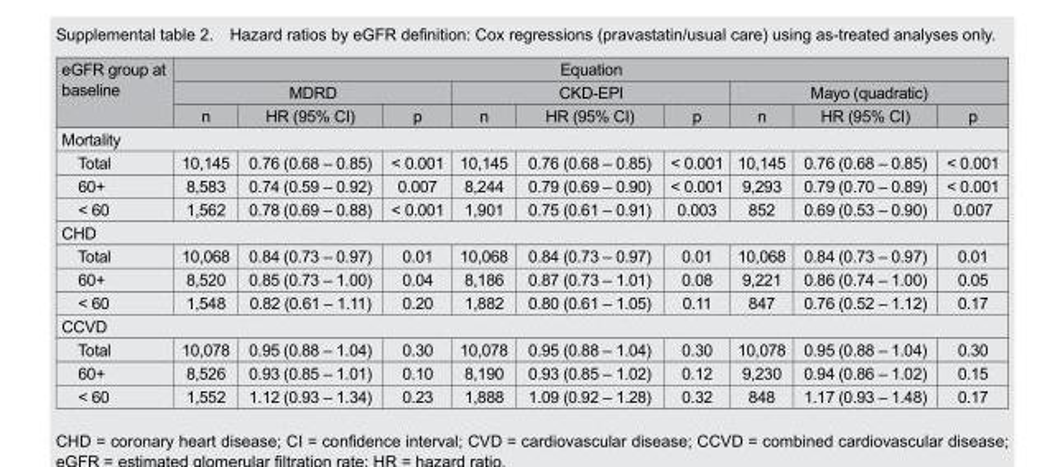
<table><thead><tr><td rowspan="3">eGFR group at baseline</td><td colspan="9">Equation</td></tr><tr><td colspan="3">MDRD</td><td colspan="3">CKD-EPI</td><td colspan="3">Mayo (quadratic)</td></tr><tr><td>n</td><td>HR (95% CI)</td><td>p</td><td>n</td><td>HR (95% CI)</td><td>p</td><td>n</td><td>HR (95% CI)</td><td>p</td></tr></thead><tbody><tr><td colspan="10">Mortality</td></tr><tr><td>Total</td><td>10,145</td><td>0.76 (0.68 – 0.85)</td><td>&lt; 0.001</td><td>10,145</td><td>0.76 (0.68 – 0.85)</td><td>&lt; 0.001</td><td>10,145</td><td>0.76 (0.68 – 0.85)</td><td>&lt; 0.001</td></tr><tr><td>60+</td><td>8,583</td><td>0.74 (0.59 – 0.92)</td><td>0.007</td><td>8,244</td><td>0.79 (0.69 – 0.90)</td><td>&lt; 0.001</td><td>9,293</td><td>0.79 (0.70 – 0.89)</td><td>&lt; 0.001</td></tr><tr><td>&lt; 60</td><td>1,562</td><td>0.78 (0.69 – 0.88)</td><td>&lt; 0.001</td><td>1,901</td><td>0.75 (0.61 – 0.91)</td><td>0.003</td><td>852</td><td>0.69 (0.53 – 0.90)</td><td>0.007</td></tr><tr><td colspan="10">CHD</td></tr><tr><td>Total</td><td>10,068</td><td>0.84 (0.73 – 0.97)</td><td>0.01</td><td>10,068</td><td>0.84 (0.73 – 0.97)</td><td>0.01</td><td>10,068</td><td>0.84 (0.73 – 0.97)</td><td>0.01</td></tr><tr><td>60+</td><td>8,520</td><td>0.85 (0.73 – 1.00)</td><td>0.04</td><td>8,186</td><td>0.87 (0.73 – 1.01)</td><td>0.08</td><td>9,221</td><td>0.86 (0.74 – 1.00)</td><td>0.05</td></tr><tr><td>&lt; 60</td><td>1,548</td><td>0.82 (0.61 – 1.11)</td><td>0.20</td><td>1,882</td><td>0.80 (0.61 – 1.05)</td><td>0.11</td><td>847</td><td>0.76 (0.52 – 1.12)</td><td>0.17</td></tr><tr><td colspan="10">CCVD</td></tr><tr><td>Total</td><td>10,078</td><td>0.95 (0.88 – 1.04)</td><td>0.30</td><td>10,078</td><td>0.95 (0.88 – 1.04)</td><td>0.30</td><td>10,078</td><td>0.95 (0.88 – 1.04)</td><td>0.30</td></tr><tr><td>60+</td><td>8,526</td><td>0.93 (0.85 – 1.01)</td><td>0.10</td><td>8,190</td><td>0.93 (0.85 – 1.02)</td><td>0.12</td><td>9,230</td><td>0.94 (0.86 – 1.02)</td><td>0.15</td></tr><tr><td>&lt; 60</td><td>1,552</td><td>1.12 (0.93 – 1.34)</td><td>0.23</td><td>1,888</td><td>1.09 (0.92 – 1.28)</td><td>0.32</td><td>848</td><td>1.17 (0.93 – 1.48)</td><td>0.17</td></tr></tbody></table>